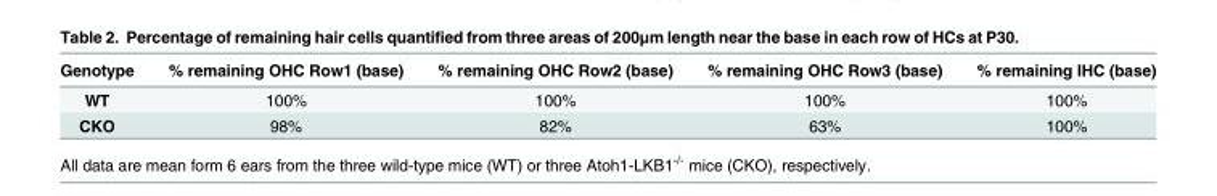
<table><thead><tr><td>Genotype</td><td>% remaining OHC Row1 (base)</td><td>% remaining OHC Row2 (base)</td><td>% remaining OHC Row3 (base)</td><td>% remaining IHC (base)</td></tr></thead><tbody><tr><td>WT</td><td>100%</td><td>100%</td><td>100%</td><td>100%</td></tr><tr><td>CKO</td><td>98%</td><td>82%</td><td>63%</td><td>100%</td></tr></tbody></table>